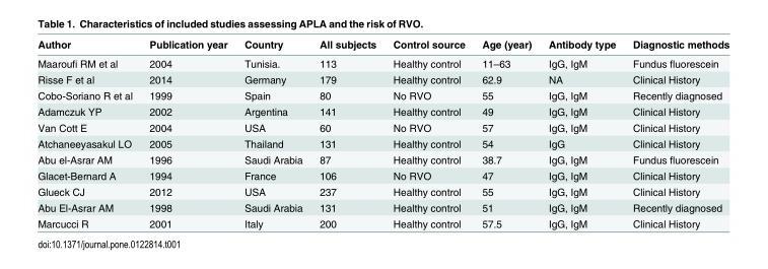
<table><thead><tr><td>Author</td><td>Publication year</td><td>Country</td><td>All subjects</td><td>Control source</td><td>Age (year)</td><td>Antibody type</td><td>Diagnostic methods</td></tr></thead><tbody><tr><td>Maaroufi RM et al</td><td>2004</td><td>Tunisia.</td><td>113</td><td>Healthy control</td><td>11–63</td><td>IgG, IgM</td><td>Fundus fluorescein</td></tr><tr><td>Risse F et al</td><td>2014</td><td>Germany</td><td>179</td><td>Healthy control</td><td>62.9</td><td>NA</td><td>Clinical History</td></tr><tr><td>Cobo-Soriano R et al</td><td>1999</td><td>Spain</td><td>80</td><td>No RVO</td><td>55</td><td>IgG, IgM</td><td>Recently diagnosed</td></tr><tr><td>Adamczuk YP</td><td>2002</td><td>Argentina</td><td>141</td><td>Healthy control</td><td>49</td><td>IgG, IgM</td><td>Clinical History</td></tr><tr><td>Van Cott E</td><td>2004</td><td>USA</td><td>60</td><td>No RVO</td><td>57</td><td>IgG, IgM</td><td>Clinical History</td></tr><tr><td>Atchaneeyasakul LO</td><td>2005</td><td>Thailand</td><td>131</td><td>Healthy control</td><td>54</td><td>IgG</td><td>Clinical History</td></tr><tr><td>Abu el-Asrar AM</td><td>1996</td><td>Saudi Arabia</td><td>87</td><td>Healthy control</td><td>38.7</td><td>IgG, IgM</td><td>Fundus fluorescein</td></tr><tr><td>Glacet-Bernard A</td><td>1994</td><td>France</td><td>106</td><td>No RVO</td><td>47</td><td>IgG, IgM</td><td>Clinical History</td></tr><tr><td>Glueck CJ</td><td>2012</td><td>USA</td><td>237</td><td>Healthy control</td><td>55</td><td>IgG, IgM</td><td>Clinical History</td></tr><tr><td>Abu El-Asrar AM</td><td>1998</td><td>Saudi Arabia</td><td>131</td><td>Healthy control</td><td>51</td><td>IgG, IgM</td><td>Recently diagnosed</td></tr><tr><td>Marcucci R</td><td>2001</td><td>Italy</td><td>200</td><td>Healthy control</td><td>57.5</td><td>IgG, IgM</td><td>Clinical History</td></tr></tbody></table>